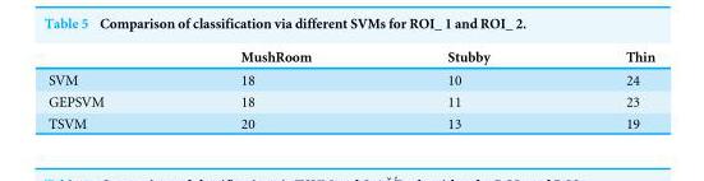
<table><thead><tr><td></td><td>MushRoom</td><td>Stubby</td><td>Thin</td></tr></thead><tbody><tr><td>SVM</td><td>18</td><td>10</td><td>24</td></tr><tr><td>GEPSVM</td><td>18</td><td>11</td><td>23</td></tr><tr><td>TSVM</td><td>20</td><td>13</td><td>19</td></tr></tbody></table>